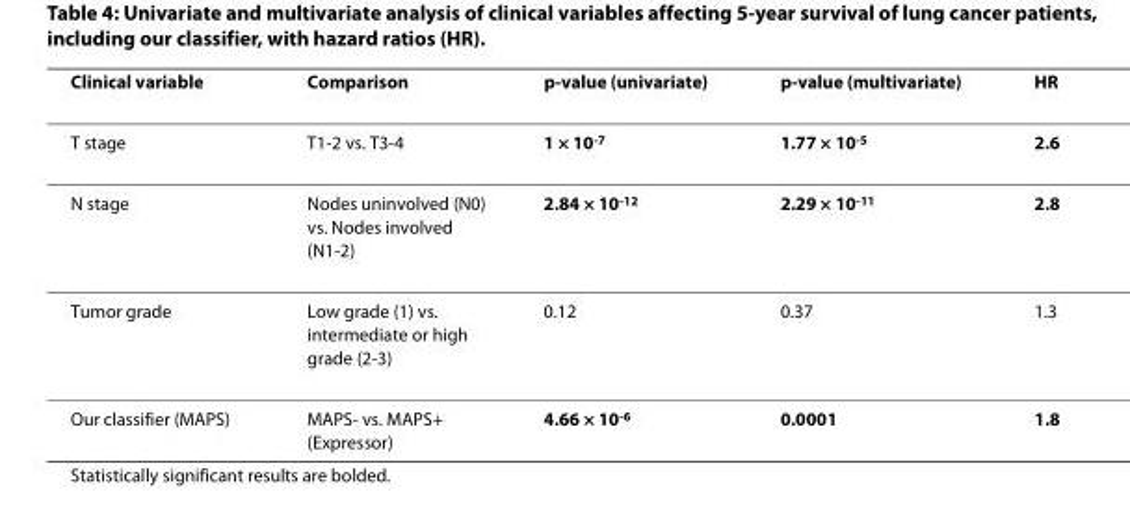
<table><thead><tr><td>Clinical variable</td><td>Comparison</td><td>p-value (univariate)</td><td>p-value (multivariate)</td><td>HR</td></tr></thead><tbody><tr><td>T stage</td><td>T1-2 vs. T3-4</td><td>1 × 10<sup>-7</sup></td><td>1.77 × 10<sup>-5</sup></td><td>2.6</td></tr><tr><td>N stage</td><td>Nodes uninvolved (N0) vs. Nodes involved (N1-2)</td><td>2.84 × 10<sup>-12</sup></td><td>2.29 × 10<sup>-11</sup></td><td>2.8</td></tr><tr><td>Tumor grade</td><td>Low grade (1) vs. intermediate or high grade (2-3)</td><td>0.12</td><td>0.37</td><td>1.3</td></tr><tr><td>Our classifier (MAPS)</td><td>MAPS- vs. MAPS+ (Expressor)</td><td>4.66 × 10<sup>-6</sup></td><td>0.0001</td><td>1.8</td></tr></tbody></table>